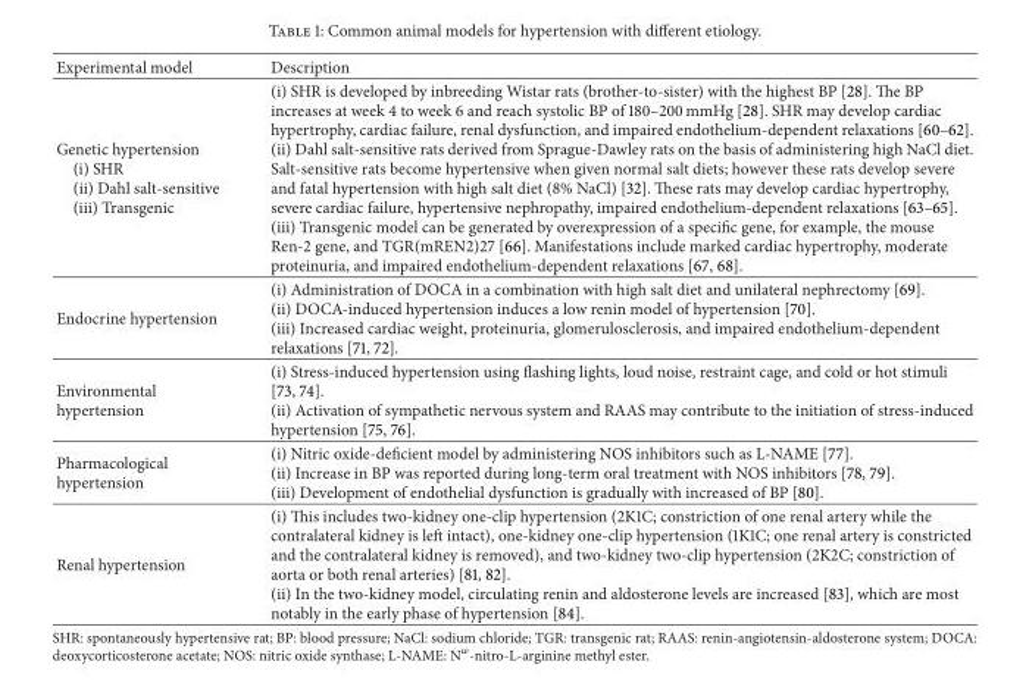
<table><thead><tr><td>Experimental model</td><td>Description</td></tr></thead><tbody><tr><td>Genetic hypertension (i) SHR (ii) Dahl salt-sensitive (iii) Transgenic</td><td>(i) SHR is developed by inbreeding Wistar rats (brother-to-sister) with the highest BP [28]. The BP increases at week 4 to week 6 and reach systolic BP of 180–200 mmHg [28]. SHR may develop cardiac hypertrophy, cardiac failure, renal dysfunction, and impaired endothelium-dependent relaxations [60–62]. (ii) Dahl salt-sensitive rats derived from Sprague-Dawley rats on the basis of administering high NaCl diet. Salt-sensitive rats become hypertensive when given normal salt diets; however these rats develop severe and fatal hypertension with high salt diet (8% NaCl) [32]. These rats may develop cardiac hypertrophy, severe cardiac failure, hypertensive nephropathy, impaired endothelium-dependent relaxations [63–65]. (iii) Transgenic model can be generated by overexpression of a specific gene, for example, the mouse Ren-2 gene, and TGR(mREN2)27 [66]. Manifestations include marked cardiac hypertrophy, moderate proteinuria, and impaired endothelium-dependent relaxations [67, 68].</td></tr><tr><td>Endocrine hypertension</td><td>(i) Administration of DOCA in a combination with high salt diet and unilateral nephrectomy [69]. (ii) DOCA-induced hypertension induces a low renin model of hypertension [70]. (iii) Increased cardiac weight, proteinuria, glomerulosclerosis, and impaired endothelium-dependent relaxations [71, 72].</td></tr><tr><td>Environmental hypertension</td><td>(i) Stress-induced hypertension using flashing lights, loud noise, restraint cage, and cold or hot stimuli [73, 74]. (ii) Activation of sympathetic nervous system and RAAS may contribute to the initiation of stress-induced hypertension [75, 76].</td></tr><tr><td>Pharmacological hypertension</td><td>(i) Nitric oxide-deficient model by administering NOS inhibitors such as L-NAME [77]. (ii) Increase in BP was reported during long-term oral treatment with NOS inhibitors [78, 79]. (iii) Development of endothelial dysfunction is gradually with increased of BP [80].</td></tr><tr><td>Renal hypertension</td><td>(i) This includes two-kidney one-clip hypertension (2K1C; constriction of one renal artery while the contralateral kidney is left intact), one-kidney one-clip hypertension (1K1C; one renal artery is constricted and the contralateral kidney is removed), and two-kidney two-clip hypertension (2K2C; constriction of aorta or both renal arteries) [81, 82]. (ii) In the two-kidney model, circulating renin and aldosterone levels are increased [83], which are most notably in the early phase of hypertension [84].</td></tr></tbody></table>